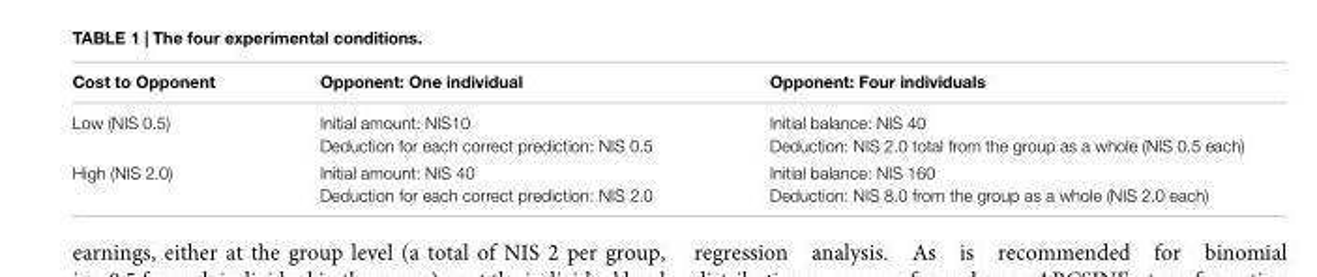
<table><thead><tr><td>Cost to Opponent</td><td>Opponent: One individual</td><td>Opponent: Four individuals</td></tr></thead><tbody><tr><td>Low (NIS 0.5)</td><td>Initial amount: NIS10 Deduction for each correct prediction: NIS 0.5</td><td>Initial balance: NIS 40 Deduction: NIS 2.0 total from the group as a whole (NIS 0.5 each)</td></tr><tr><td>High (NIS 2.0)</td><td>Initial amount: NIS 40 Deduction for each correct prediction: NIS 2.0</td><td>Initial balance: NIS 160 Deduction: NIS 8.0 from the group as a whole (NIS 2.0 each)</td></tr></tbody></table>